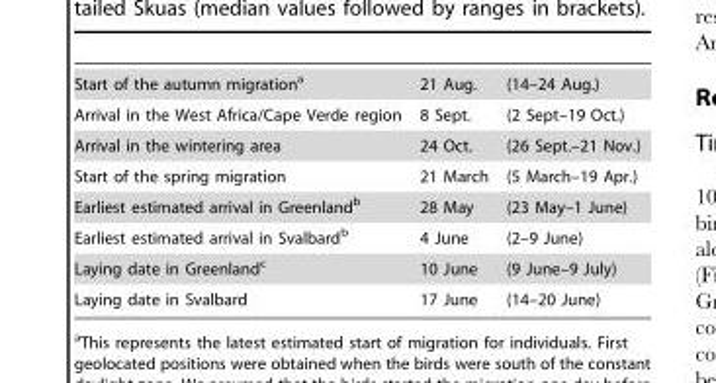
<table><tbody><tr><td>Start of the autumn migration<sup>a</sup></td><td>21 Aug.</td><td>(14–24 Aug.)</td></tr><tr><td>Arrival in the West Africa/Cape Verde region</td><td>8 Sept.</td><td>(2 Sept–19 Oct.)</td></tr><tr><td>Arrival in the wintering area</td><td>24 Oct.</td><td>(26 Sept.–21 Nov.)</td></tr><tr><td>Start of the spring migration</td><td>21 March</td><td>(5 March–19 Apr.)</td></tr><tr><td>Earliest estimated arrival in Greenland<sup>b</sup></td><td>28 May</td><td>(23 May–1 June)</td></tr><tr><td>Earliest estimated arrival in Svalbard<sup>b</sup></td><td>4 June</td><td>(2–9 June)</td></tr><tr><td>Laying date in Greenland<sup>c</sup></td><td>10 June</td><td>(9 June–9 July)</td></tr><tr><td>Laying date in Svalbard</td><td>17 June</td><td>(14–20 June)</td></tr></tbody></table>